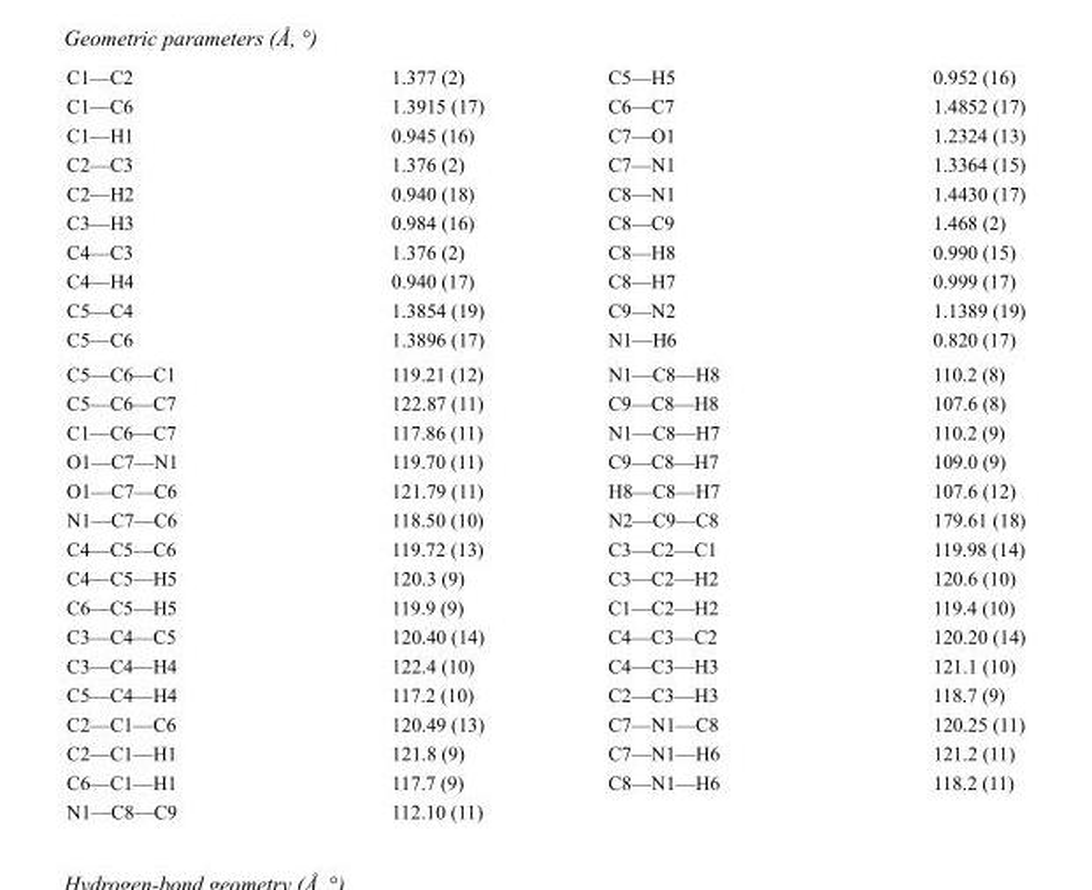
<table><tbody><tr><td>C1—C2</td><td>1.377 (2)</td><td>C5—H5</td><td>0.952 (16)</td></tr><tr><td>C1—C6</td><td>1.3915 (17)</td><td>C6—C7</td><td>1.4852 (17)</td></tr><tr><td>C1—H1</td><td>0.945 (16)</td><td>C7—O1</td><td>1.2324 (13)</td></tr><tr><td>C2—C3</td><td>1.376 (2)</td><td>C7—N1</td><td>1.3364 (15)</td></tr><tr><td>C2—H2</td><td>0.940 (18)</td><td>C8—N1</td><td>1.4430 (17)</td></tr><tr><td>C3—H3</td><td>0.984 (16)</td><td>C8—C9</td><td>1.468 (2)</td></tr><tr><td>C4—C3</td><td>1.376 (2)</td><td>C8—H8</td><td>0.990 (15)</td></tr><tr><td>C4—H4</td><td>0.940 (17)</td><td>C8—H7</td><td>0.999 (17)</td></tr><tr><td>C5—C4</td><td>1.3854 (19)</td><td>C9—N2</td><td>1.1389 (19)</td></tr><tr><td>C5—C6</td><td>1.3896 (17)</td><td>N1—H6</td><td>0.820 (17)</td></tr><tr><td>C5—C6—C1</td><td>119.21 (12)</td><td>N1—C8—H8</td><td>110.2 (8)</td></tr><tr><td>C5—C6—C7</td><td>122.87 (11)</td><td>C9—C8—H8</td><td>107.6 (8)</td></tr><tr><td>C1—C6—C7</td><td>117.86 (11)</td><td>N1—C8—H7</td><td>110.2 (9)</td></tr><tr><td>O1—C7—N1</td><td>119.70 (11)</td><td>C9—C8—H7</td><td>109.0 (9)</td></tr><tr><td>O1—C7—C6</td><td>121.79 (11)</td><td>H8—C8—H7</td><td>107.6 (12)</td></tr><tr><td>N1—C7—C6</td><td>118.50 (10)</td><td>N2—C9—C8</td><td>179.61 (18)</td></tr><tr><td>C4—C5—C6</td><td>119.72 (13)</td><td>C3—C2—C1</td><td>119.98 (14)</td></tr><tr><td>C4—C5—H5</td><td>120.3 (9)</td><td>C3—C2—H2</td><td>120.6 (10)</td></tr><tr><td>C6—C5—H5</td><td>119.9 (9)</td><td>C1—C2—H2</td><td>119.4 (10)</td></tr><tr><td>C3—C4—C5</td><td>120.40 (14)</td><td>C4—C3—C2</td><td>120.20 (14)</td></tr><tr><td>C3—C4—H4</td><td>122.4 (10)</td><td>C4—C3—H3</td><td>121.1 (10)</td></tr><tr><td>C5—C4—H4</td><td>117.2 (10)</td><td>C2—C3—H3</td><td>118.7 (9)</td></tr><tr><td>C2—C1—C6</td><td>120.49 (13)</td><td>C7—N1—C8</td><td>120.25 (11)</td></tr><tr><td>C2—C1—H1</td><td>121.8 (9)</td><td>C7—N1—H6</td><td>121.2 (11)</td></tr><tr><td>C6—C1—H1</td><td>117.7 (9)</td><td>C8—N1—H6</td><td>118.2 (11)</td></tr><tr><td>N1—C8—C9</td><td>112.10 (11)</td><td></td><td></td></tr></tbody></table>